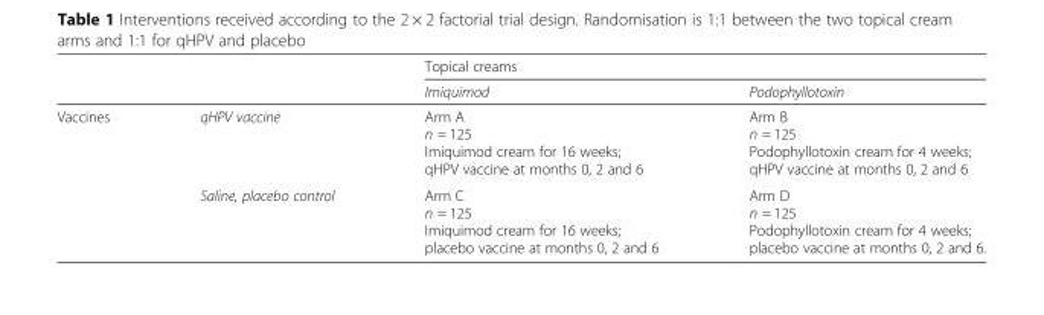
<table><thead><tr><td rowspan="2"></td><td rowspan="2"></td><td colspan="2">Topical creams</td></tr><tr><td>Imiquimod</td><td>Podophyllotoxin</td></tr></thead><tbody><tr><td rowspan="2">Vaccines</td><td>qHPV vaccine</td><td>Arm A n = 125 Imiquimod cream for 16 weeks; qHPV vaccine at months 0, 2 and 6</td><td>Arm B n = 125 Podophyllotoxin cream for 4 weeks; qHPV vaccine at months 0, 2 and 6</td></tr><tr><td>Saline, placebo control</td><td>Arm C n = 125 Imiquimod cream for 16 weeks; placebo vaccine at months 0, 2 and 6</td><td>Arm D n = 125 Podophyllotoxin cream for 4 weeks; placebo vaccine at months 0, 2 and 6.</td></tr></tbody></table>